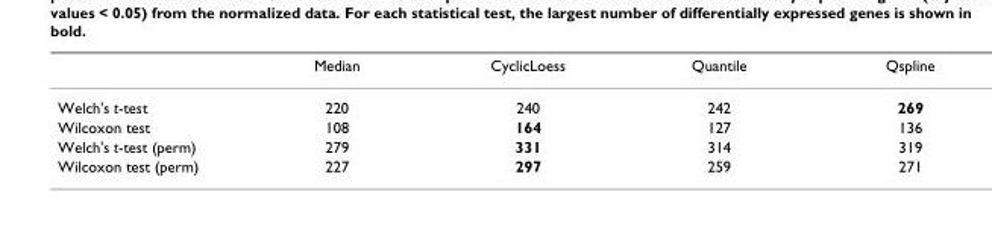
<table><thead><tr><td></td><td>Median</td><td>CyclicLoess</td><td>Quantile</td><td>Qspline</td></tr></thead><tbody><tr><td>Welch&#x27;s t-test</td><td>220</td><td>240</td><td>242</td><td>269</td></tr><tr><td>Wilcoxon test</td><td>108</td><td>164</td><td>127</td><td>136</td></tr><tr><td>Welch&#x27;s t-test (perm)</td><td>279</td><td>331</td><td>314</td><td>319</td></tr><tr><td>Wilcoxon test (perm)</td><td>227</td><td>297</td><td>259</td><td>271</td></tr></tbody></table>